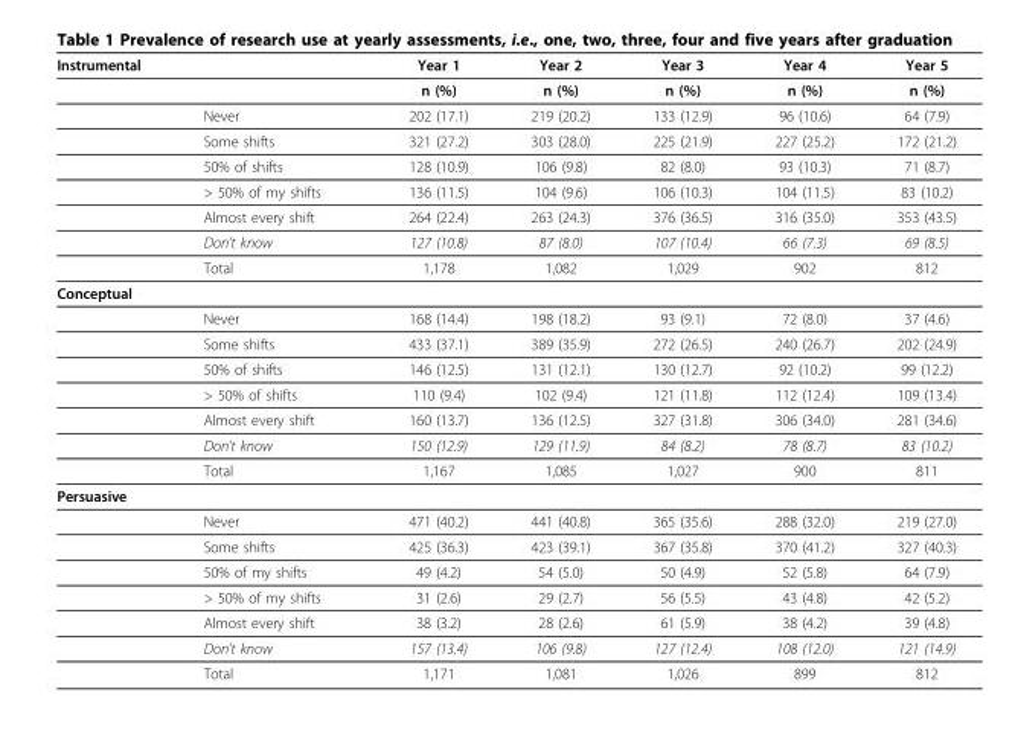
<table><thead><tr><td>Instrumental</td><td></td><td>Year 1</td><td>Year 2</td><td>Year 3</td><td>Year 4</td><td>Year 5</td></tr></thead><tbody><tr><td></td><td></td><td>n (%)</td><td>n (%)</td><td>n (%)</td><td>n (%)</td><td>n (%)</td></tr><tr><td></td><td>Never</td><td>202 (17.1)</td><td>219 (20.2)</td><td>133 (12.9)</td><td>96 (10.6)</td><td>64 (7.9)</td></tr><tr><td></td><td>Some shifts</td><td>321 (27.2)</td><td>303 (28.0)</td><td>225 (21.9)</td><td>227 (25.2)</td><td>172 (21.2)</td></tr><tr><td></td><td>50% of shifts</td><td>128 (10.9)</td><td>106 (9.8)</td><td>82 (8.0)</td><td>93 (10.3)</td><td>71 (8.7)</td></tr><tr><td></td><td>&gt; 50% of my shifts</td><td>136 (11.5)</td><td>104 (9.6)</td><td>106 (10.3)</td><td>104 (11.5)</td><td>83 (10.2)</td></tr><tr><td></td><td>Almost every shift</td><td>264 (22.4)</td><td>263 (24.3)</td><td>376 (36.5)</td><td>316 (35.0)</td><td>353 (43.5)</td></tr><tr><td></td><td>Don’t know</td><td>127 (10.8)</td><td>87 (8.0)</td><td>107 (10.4)</td><td>66 (7.3)</td><td>69 (8.5)</td></tr><tr><td></td><td>Total</td><td>1,178</td><td>1,082</td><td>1,029</td><td>902</td><td>812</td></tr><tr><td colspan="7">Conceptual</td></tr><tr><td></td><td>Never</td><td>168 (14.4)</td><td>198 (18.2)</td><td>93 (9.1)</td><td>72 (8.0)</td><td>37 (4.6)</td></tr><tr><td></td><td>Some shifts</td><td>433 (37.1)</td><td>389 (35.9)</td><td>272 (26.5)</td><td>240 (26.7)</td><td>202 (24.9)</td></tr><tr><td></td><td>50% of shifts</td><td>146 (12.5)</td><td>131 (12.1)</td><td>130 (12.7)</td><td>92 (10.2)</td><td>99 (12.2)</td></tr><tr><td></td><td>&gt; 50% of shifts</td><td>110 (9.4)</td><td>102 (9.4)</td><td>121 (11.8)</td><td>112 (12.4)</td><td>109 (13.4)</td></tr><tr><td></td><td>Almost every shift</td><td>160 (13.7)</td><td>136 (12.5)</td><td>327 (31.8)</td><td>306 (34.0)</td><td>281 (34.6)</td></tr><tr><td></td><td>Don’t know</td><td>150 (12.9)</td><td>129 (11.9)</td><td>84 (8.2)</td><td>78 (8.7)</td><td>83 (10.2)</td></tr><tr><td></td><td>Total</td><td>1,167</td><td>1,085</td><td>1,027</td><td>900</td><td>811</td></tr><tr><td colspan="7">Persuasive</td></tr><tr><td></td><td>Never</td><td>471 (40.2)</td><td>441 (40.8)</td><td>365 (35.6)</td><td>288 (32.0)</td><td>219 (27.0)</td></tr><tr><td></td><td>Some shifts</td><td>425 (36.3)</td><td>423 (39.1)</td><td>367 (35.8)</td><td>370 (41.2)</td><td>327 (40.3)</td></tr><tr><td></td><td>50% of my shifts</td><td>49 (4.2)</td><td>54 (5.0)</td><td>50 (4.9)</td><td>52 (5.8)</td><td>64 (7.9)</td></tr><tr><td></td><td>&gt; 50% of my shifts</td><td>31 (2.6)</td><td>29 (2.7)</td><td>56 (5.5)</td><td>43 (4.8)</td><td>42 (5.2)</td></tr><tr><td></td><td>Almost every shift</td><td>38 (3.2)</td><td>28 (2.6)</td><td>61 (5.9)</td><td>38 (4.2)</td><td>39 (4.8)</td></tr><tr><td></td><td>Don’t know</td><td>157 (13.4)</td><td>106 (9.8)</td><td>127 (12.4)</td><td>108 (12.0)</td><td>121 (14.9)</td></tr><tr><td></td><td>Total</td><td>1,171</td><td>1,081</td><td>1,026</td><td>899</td><td>812</td></tr></tbody></table>